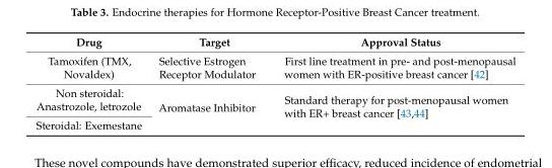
<table><thead><tr><td>Drug</td><td>Target</td><td>Approval Status</td></tr></thead><tbody><tr><td>Tamoxifen (TMX, Novaldex)</td><td>Selective Estrogen Receptor Modulator</td><td>First line treatment in pre- and post-menopausal women with ER-positive breast cancer [42]</td></tr><tr><td>Non steroidal: Anastrozole, letrozole</td><td rowspan="2">Aromatase Inhibitor</td><td rowspan="2">Standard therapy for post-menopausal women with ER+ breast cancer [43,44]</td></tr><tr><td>Steroidal: Exemestane</td></tr></tbody></table>